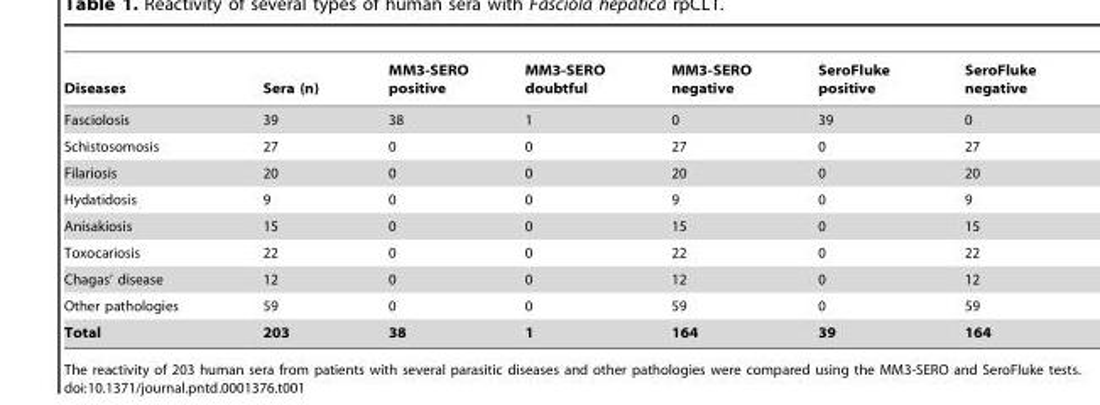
<table><thead><tr><td>Diseases</td><td>Sera (n)</td><td>MM3-SERO positive</td><td>MM3-SERO doubtful</td><td>MM3-SERO negative</td><td>SeroFluke positive</td><td>SeroFluke negative</td></tr></thead><tbody><tr><td>Fasciolosis</td><td>39</td><td>38</td><td>1</td><td>0</td><td>39</td><td>0</td></tr><tr><td>Schistosomosis</td><td>27</td><td>0</td><td>0</td><td>27</td><td>0</td><td>27</td></tr><tr><td>Filariosis</td><td>20</td><td>0</td><td>0</td><td>20</td><td>0</td><td>20</td></tr><tr><td>Hydatidosis</td><td>9</td><td>0</td><td>0</td><td>9</td><td>0</td><td>9</td></tr><tr><td>Anisakiosis</td><td>15</td><td>0</td><td>0</td><td>15</td><td>0</td><td>15</td></tr><tr><td>Toxocariosis</td><td>22</td><td>0</td><td>0</td><td>22</td><td>0</td><td>22</td></tr><tr><td>Chagas’ disease</td><td>12</td><td>0</td><td>0</td><td>12</td><td>0</td><td>12</td></tr><tr><td>Other pathologies</td><td>59</td><td>0</td><td>0</td><td>59</td><td>0</td><td>59</td></tr><tr><td>Total</td><td>203</td><td>38</td><td>1</td><td>164</td><td>39</td><td>164</td></tr></tbody></table>